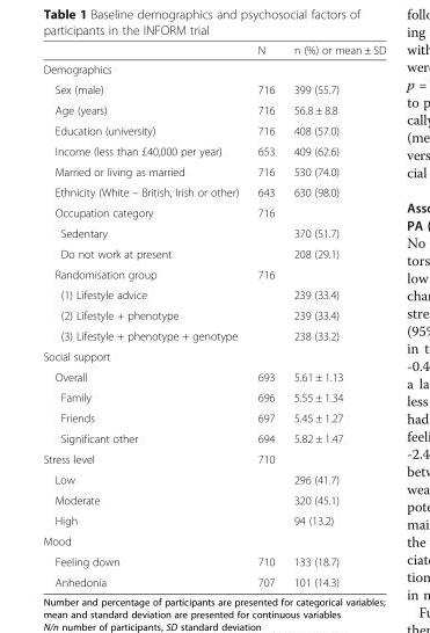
<table><thead><tr><td></td><td>N</td><td>n (%) or mean ± SD</td></tr></thead><tbody><tr><td colspan="3">Demographics</td></tr><tr><td>Sex (male)</td><td>716</td><td>399 (55.7)</td></tr><tr><td>Age (years)</td><td>716</td><td>56.8 ± 8.8</td></tr><tr><td>Education (university)</td><td>716</td><td>408 (57.0)</td></tr><tr><td>Income (less than £40,000 per year)</td><td>653</td><td>409 (62.6)</td></tr><tr><td>Married or living as married</td><td>716</td><td>530 (74.0)</td></tr><tr><td>Ethnicity (White – British, Irish or other)</td><td>643</td><td>630 (98.0)</td></tr><tr><td>Occupation category</td><td>716</td><td></td></tr><tr><td>Sedentary</td><td></td><td>370 (51.7)</td></tr><tr><td>Do not work at present</td><td></td><td>208 (29.1)</td></tr><tr><td>Randomisation group</td><td>716</td><td></td></tr><tr><td>(1) Lifestyle advice</td><td></td><td>239 (33.4)</td></tr><tr><td>(2) Lifestyle + phenotype</td><td></td><td>239 (33.4)</td></tr><tr><td>(3) Lifestyle + phenotype + genotype</td><td></td><td>238 (33.2)</td></tr><tr><td colspan="3">Social support</td></tr><tr><td>Overall</td><td>693</td><td>5.61 ± 1.13</td></tr><tr><td>Family</td><td>696</td><td>5.55 ± 1.34</td></tr><tr><td>Friends</td><td>697</td><td>5.45 ± 1.27</td></tr><tr><td>Significant other</td><td>694</td><td>5.82 ± 1.47</td></tr><tr><td>Stress level</td><td>710</td><td></td></tr><tr><td>Low</td><td></td><td>296 (41.7)</td></tr><tr><td>Moderate</td><td></td><td>320 (45.1)</td></tr><tr><td>High</td><td></td><td>94 (13.2)</td></tr><tr><td colspan="3">Mood</td></tr><tr><td>Feeling down</td><td>710</td><td>133 (18.7)</td></tr><tr><td>Anhedonia</td><td>707</td><td>101 (14.3)</td></tr></tbody></table>